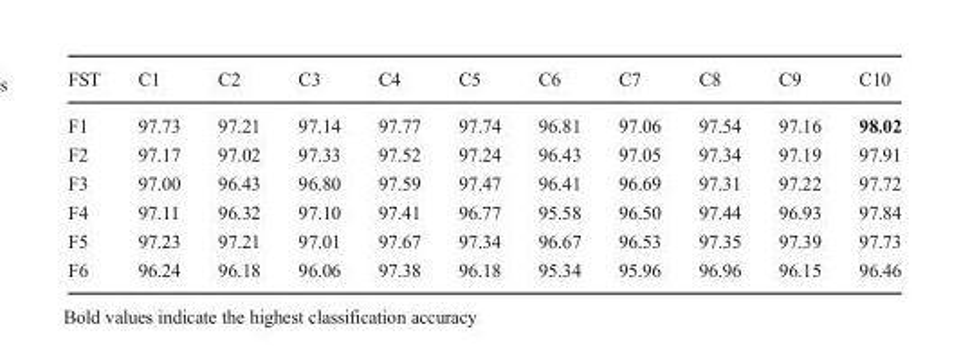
<table><thead><tr><td>FST</td><td>C1</td><td>C2</td><td>C3</td><td>C4</td><td>C5</td><td>C6</td><td>C7</td><td>C8</td><td>C9</td><td>C10</td></tr></thead><tbody><tr><td>F1</td><td>97.73</td><td>97.21</td><td>97.14</td><td>97.77</td><td>97.74</td><td>96.81</td><td>97.06</td><td>97.54</td><td>97.16</td><td>98.02</td></tr><tr><td>F2</td><td>97.17</td><td>97.02</td><td>97.33</td><td>97.52</td><td>97.24</td><td>96.43</td><td>97.05</td><td>97.34</td><td>97.19</td><td>97.91</td></tr><tr><td>F3</td><td>97.00</td><td>96.43</td><td>96.80</td><td>97.59</td><td>97.47</td><td>96.41</td><td>96.69</td><td>97.31</td><td>97.22</td><td>97.72</td></tr><tr><td>F4</td><td>97.11</td><td>96.32</td><td>97.10</td><td>97.41</td><td>96.77</td><td>95.58</td><td>96.50</td><td>97.44</td><td>96.93</td><td>97.84</td></tr><tr><td>F5</td><td>97.23</td><td>97.21</td><td>97.01</td><td>97.67</td><td>97.34</td><td>96.67</td><td>96.53</td><td>97.35</td><td>97.39</td><td>97.73</td></tr><tr><td>F6</td><td>96.24</td><td>96.18</td><td>96.06</td><td>97.38</td><td>96.18</td><td>95.34</td><td>95.96</td><td>96.96</td><td>96.15</td><td>96.46</td></tr></tbody></table>